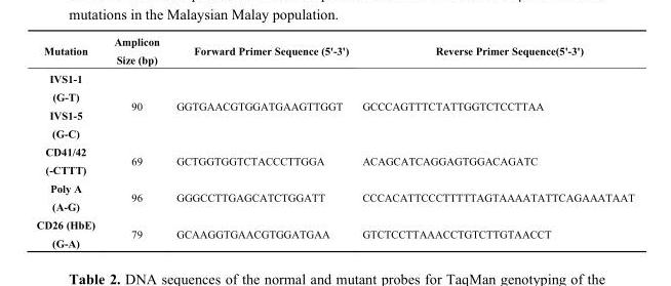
<table><thead><tr><td>Mutation</td><td>Amplicon Size (bp)</td><td>Forward Primer Sequence (5&#x27;-3&#x27;)</td><td>Reverse Primer Sequence(5&#x27;-3&#x27;)</td></tr></thead><tbody><tr><td>IVS1-1 (G-T) IVS1-5 (G-C)</td><td>90</td><td>GGTGAACGTGGATGAAGTTGGT</td><td>GCCCAGTTTCTATTGGTCTCCTTAA</td></tr><tr><td>CD41/42 (-CTTT)</td><td>69</td><td>GCTGGTGGTCTACCCTTGGA</td><td>ACAGCATCAGGAGTGGACAGATC</td></tr><tr><td>Poly A (A-G)</td><td>96</td><td>GGGCCTTGAGCATCTGGATT</td><td>CCCACATTCCCTTTTTAGTAAAATATTCAGAAATAAT</td></tr><tr><td>CD26 (HbE) (G-A)</td><td>79</td><td>GCAAGGTGAACGTGGATGAA</td><td>GTCTCCTTAAACCTGTCTTGTAACCT</td></tr></tbody></table>